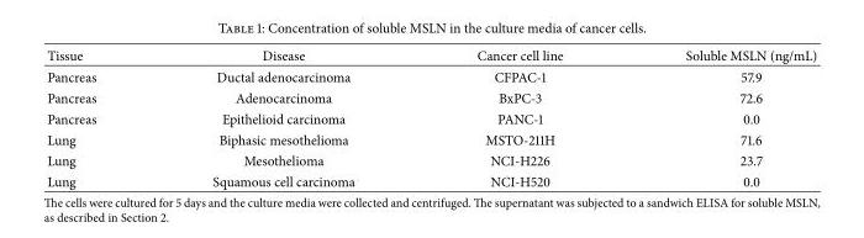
<table><thead><tr><td>Tissue</td><td>Disease</td><td>Cancer cell line</td><td>Soluble MSLN (ng/mL)</td></tr></thead><tbody><tr><td>Pancreas</td><td>Ductal adenocarcinoma</td><td>CFPAC-1</td><td>57.9</td></tr><tr><td>Pancreas</td><td>Adenocarcinoma</td><td>BxPC-3</td><td>72.6</td></tr><tr><td>Pancreas</td><td>Epithelioid carcinoma</td><td>PANC-1</td><td>0.0</td></tr><tr><td>Lung</td><td>Biphasic mesothelioma</td><td>MSTO-211H</td><td>71.6</td></tr><tr><td>Lung</td><td>Mesothelioma</td><td>NCI-H226</td><td>23.7</td></tr><tr><td>Lung</td><td>Squamous cell carcinoma</td><td>NCI-H520</td><td>0.0</td></tr></tbody></table>